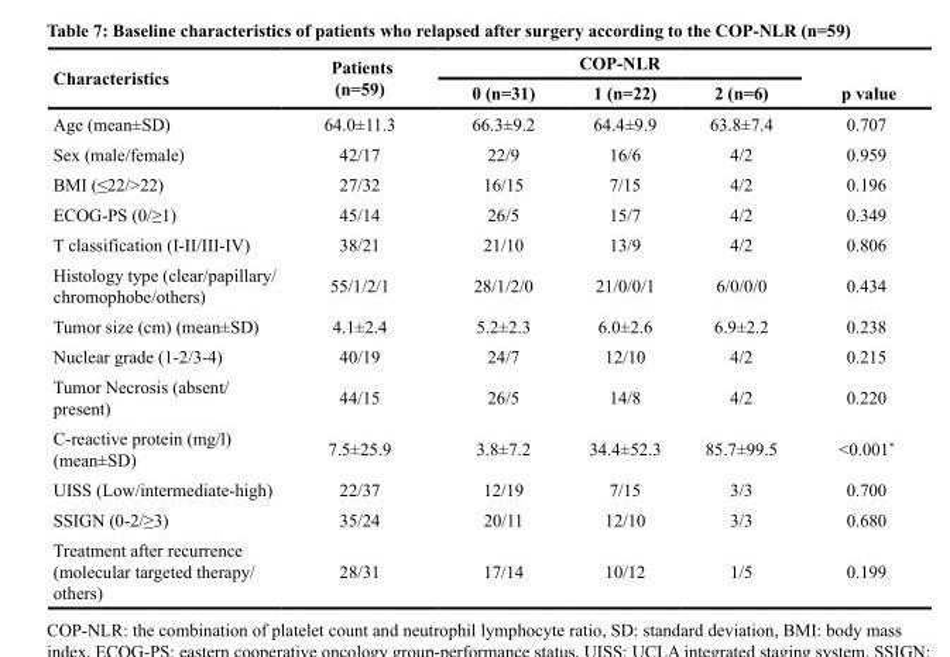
<table><thead><tr><td rowspan="2">Characteristics</td><td rowspan="2">Patients (n=59)</td><td colspan="3">COP-NLR</td><td rowspan="2">p value</td></tr><tr><td>0 (n=31)</td><td>1 (n=22)</td><td>2 (n=6)</td></tr></thead><tbody><tr><td>Age (mean±SD)</td><td>64.0±11.3</td><td>66.3±9.2</td><td>64.4±9.9</td><td>63.8±7.4</td><td>0.707</td></tr><tr><td>Sex (male/female)</td><td>42/17</td><td>22/9</td><td>16/6</td><td>4/2</td><td>0.959</td></tr><tr><td>BMI (≤22/&gt;22)</td><td>27/32</td><td>16/15</td><td>7/15</td><td>4/2</td><td>0.196</td></tr><tr><td>ECOG-PS (0/≥1)</td><td>45/14</td><td>26/5</td><td>15/7</td><td>4/2</td><td>0.349</td></tr><tr><td>T classification (I-II/III-IV)</td><td>38/21</td><td>21/10</td><td>13/9</td><td>4/2</td><td>0.806</td></tr><tr><td>Histology type (clear/papillary/ chromophobe/others)</td><td>55/1/2/1</td><td>28/1/2/0</td><td>21/0/0/1</td><td>6/0/0/0</td><td>0.434</td></tr><tr><td>Tumor size (cm) (mean±SD)</td><td>4.1±2.4</td><td>5.2±2.3</td><td>6.0±2.6</td><td>6.9±2.2</td><td>0.238</td></tr><tr><td>Nuclear grade (1-2/3-4)</td><td>40/19</td><td>24/7</td><td>12/10</td><td>4/2</td><td>0.215</td></tr><tr><td>Tumor Necrosis (absent/ present)</td><td>44/15</td><td>26/5</td><td>14/8</td><td>4/2</td><td>0.220</td></tr><tr><td>C-reactive protein (mg/l) (mean±SD)</td><td>7.5±25.9</td><td>3.8±7.2</td><td>34.4±52.3</td><td>85.7±99.5</td><td>&lt;0.001*</td></tr><tr><td>UISS (Low/intermediate-high)</td><td>22/37</td><td>12/19</td><td>7/15</td><td>3/3</td><td>0.700</td></tr><tr><td>SSIGN (0-2/≥3)</td><td>35/24</td><td>20/11</td><td>12/10</td><td>3/3</td><td>0.680</td></tr><tr><td>Treatment after recurrence (molecular targeted therapy/ others)</td><td>28/31</td><td>17/14</td><td>10/12</td><td>1/5</td><td>0.199</td></tr></tbody></table>